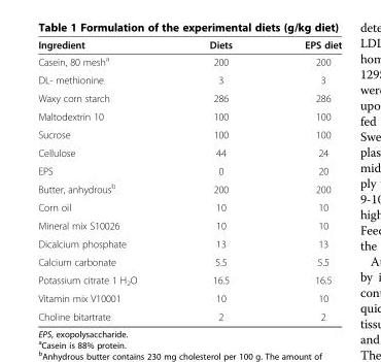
<table><thead><tr><td>Ingredient</td><td>Diets</td><td>EPS diet</td></tr></thead><tbody><tr><td>Casein, 80 mesh<sup>a</sup></td><td>200</td><td>200</td></tr><tr><td>DL- methionine</td><td>3</td><td>3</td></tr><tr><td>Waxy corn starch</td><td>286</td><td>286</td></tr><tr><td>Maltodextrin 10</td><td>100</td><td>100</td></tr><tr><td>Sucrose</td><td>100</td><td>100</td></tr><tr><td>Cellulose</td><td>44</td><td>24</td></tr><tr><td>EPS</td><td>0</td><td>20</td></tr><tr><td>Butter, anhydrous<sup>b</sup></td><td>200</td><td>200</td></tr><tr><td>Corn oil</td><td>10</td><td>10</td></tr><tr><td>Mineral mix S10026</td><td>10</td><td>10</td></tr><tr><td>Dicalcium phosphate</td><td>13</td><td>13</td></tr><tr><td>Calcium carbonate</td><td>5.5</td><td>5.5</td></tr><tr><td>Potassium citrate 1 H<sub>2</sub>O</td><td>16.5</td><td>16.5</td></tr><tr><td>Vitamin mix V10001</td><td>10</td><td>10</td></tr><tr><td>Choline bitartrate</td><td>2</td><td>2</td></tr></tbody></table>